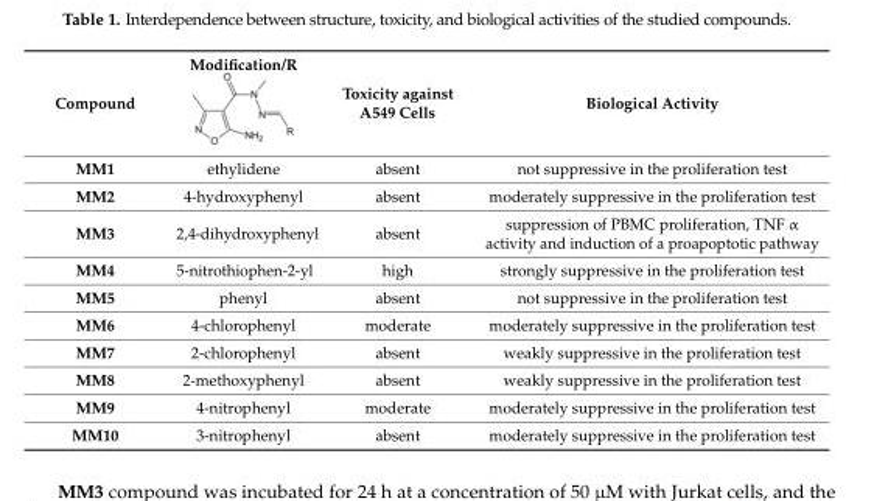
<table><thead><tr><td>Compound</td><td>Modification/R</td><td>Toxicity against A549 Cells</td><td>Biological Activity</td></tr></thead><tbody><tr><td>MM1</td><td>ethylidene</td><td>absent</td><td>not suppressive in the proliferation test</td></tr><tr><td>MM2</td><td>4-hydroxyphenyl</td><td>absent</td><td>moderately suppressive in the proliferation test</td></tr><tr><td>MM3</td><td>2,4-dihydroxyphenyl</td><td>absent</td><td>suppression of PBMC proliferation, TNF α activity and induction of a proapoptotic pathway</td></tr><tr><td>MM4</td><td>5-nitrothiophen-2-yl</td><td>high</td><td>strongly suppressive in the proliferation test</td></tr><tr><td>MM5</td><td>phenyl</td><td>absent</td><td>not suppressive in the proliferation test</td></tr><tr><td>MM6</td><td>4-chlorophenyl</td><td>moderate</td><td>moderately suppressive in the proliferation test</td></tr><tr><td>MM7</td><td>2-chlorophenyl</td><td>absent</td><td>weakly suppressive in the proliferation test</td></tr><tr><td>MM8</td><td>2-methoxyphenyl</td><td>absent</td><td>weakly suppressive in the proliferation test</td></tr><tr><td>MM9</td><td>4-nitrophenyl</td><td>moderate</td><td>moderately suppressive in the proliferation test</td></tr><tr><td>MM10</td><td>3-nitrophenyl</td><td>absent</td><td>moderately suppressive in the proliferation test</td></tr></tbody></table>